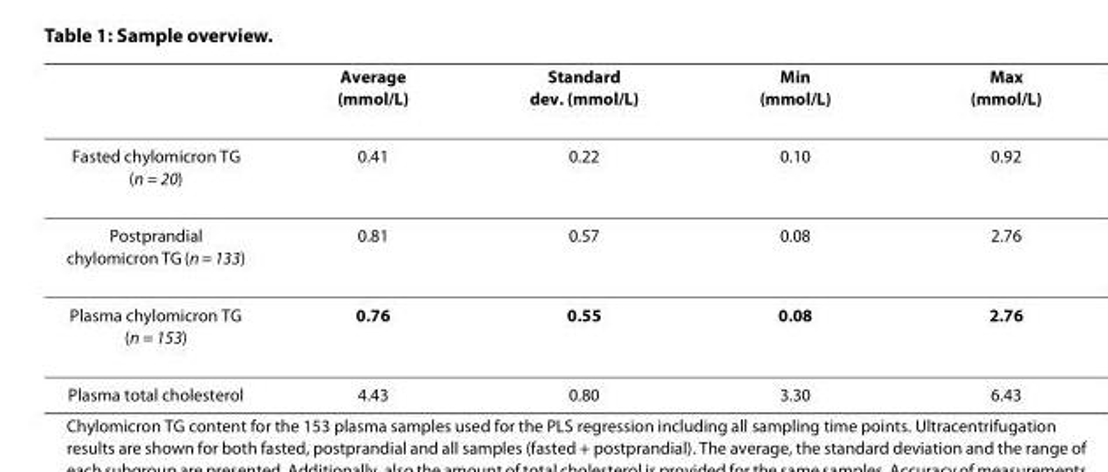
<table><thead><tr><td></td><td>Average (mmol/L)</td><td>Standard dev. (mmol/L)</td><td>Min (mmol/L)</td><td>Max (mmol/L)</td></tr></thead><tbody><tr><td>Fasted chylomicron TG (n = 20)</td><td>0.41</td><td>0.22</td><td>0.10</td><td>0.92</td></tr><tr><td>Postprandial chylomicron TG (n = 133)</td><td>0.81</td><td>0.57</td><td>0.08</td><td>2.76</td></tr><tr><td>Plasma chylomicron TG (n = 153)</td><td>0.76</td><td>0.55</td><td>0.08</td><td>2.76</td></tr><tr><td>Plasma total cholesterol</td><td>4.43</td><td>0.80</td><td>3.30</td><td>6.43</td></tr></tbody></table>